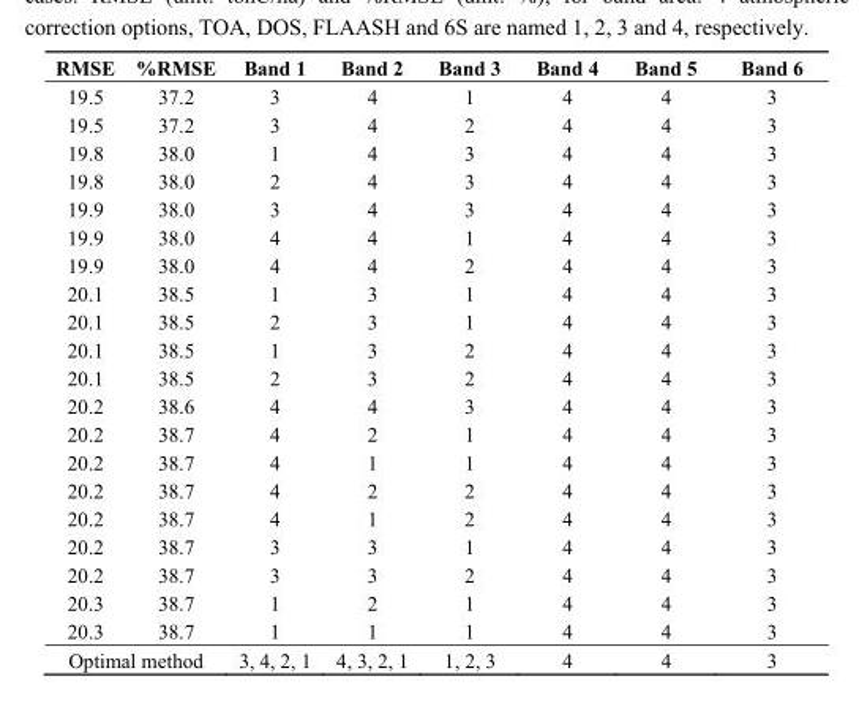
<table><thead><tr><td>RMSE</td><td>%RMSE</td><td>Band 1</td><td>Band 2</td><td>Band 3</td><td>Band 4</td><td>Band 5</td><td>Band 6</td></tr></thead><tbody><tr><td>19.5</td><td>37.2</td><td>3</td><td>4</td><td>1</td><td>4</td><td>4</td><td>3</td></tr><tr><td>19.5</td><td>37.2</td><td>3</td><td>4</td><td>2</td><td>4</td><td>4</td><td>3</td></tr><tr><td>19.8</td><td>38.0</td><td>1</td><td>4</td><td>3</td><td>4</td><td>4</td><td>3</td></tr><tr><td>19.8</td><td>38.0</td><td>2</td><td>4</td><td>3</td><td>4</td><td>4</td><td>3</td></tr><tr><td>19.9</td><td>38.0</td><td>3</td><td>4</td><td>3</td><td>4</td><td>4</td><td>3</td></tr><tr><td>19.9</td><td>38.0</td><td>4</td><td>4</td><td>1</td><td>4</td><td>4</td><td>3</td></tr><tr><td>19.9</td><td>38.0</td><td>4</td><td>4</td><td>2</td><td>4</td><td>4</td><td>3</td></tr><tr><td>20.1</td><td>38.5</td><td>1</td><td>3</td><td>1</td><td>4</td><td>4</td><td>3</td></tr><tr><td>20.1</td><td>38.5</td><td>2</td><td>3</td><td>1</td><td>4</td><td>4</td><td>3</td></tr><tr><td>20.1</td><td>38.5</td><td>1</td><td>3</td><td>2</td><td>4</td><td>4</td><td>3</td></tr><tr><td>20.1</td><td>38.5</td><td>2</td><td>3</td><td>2</td><td>4</td><td>4</td><td>3</td></tr><tr><td>20.2</td><td>38.6</td><td>4</td><td>4</td><td>3</td><td>4</td><td>4</td><td>3</td></tr><tr><td>20.2</td><td>38.7</td><td>4</td><td>2</td><td>1</td><td>4</td><td>4</td><td>3</td></tr><tr><td>20.2</td><td>38.7</td><td>4</td><td>1</td><td>1</td><td>4</td><td>4</td><td>3</td></tr><tr><td>20.2</td><td>38.7</td><td>4</td><td>2</td><td>2</td><td>4</td><td>4</td><td>3</td></tr><tr><td>20.2</td><td>38.7</td><td>4</td><td>1</td><td>2</td><td>4</td><td>4</td><td>3</td></tr><tr><td>20.2</td><td>38.7</td><td>3</td><td>3</td><td>1</td><td>4</td><td>4</td><td>3</td></tr><tr><td>20.2</td><td>38.7</td><td>3</td><td>3</td><td>2</td><td>4</td><td>4</td><td>3</td></tr><tr><td>20.3</td><td>38.7</td><td>1</td><td>2</td><td>1</td><td>4</td><td>4</td><td>3</td></tr><tr><td>20.3</td><td>38.7</td><td>1</td><td>1</td><td>1</td><td>4</td><td>4</td><td>3</td></tr><tr><td colspan="2">Optimal method</td><td>3, 4, 2, 1</td><td>4, 3, 2, 1</td><td>1, 2, 3</td><td>4</td><td>4</td><td>3</td></tr></tbody></table>